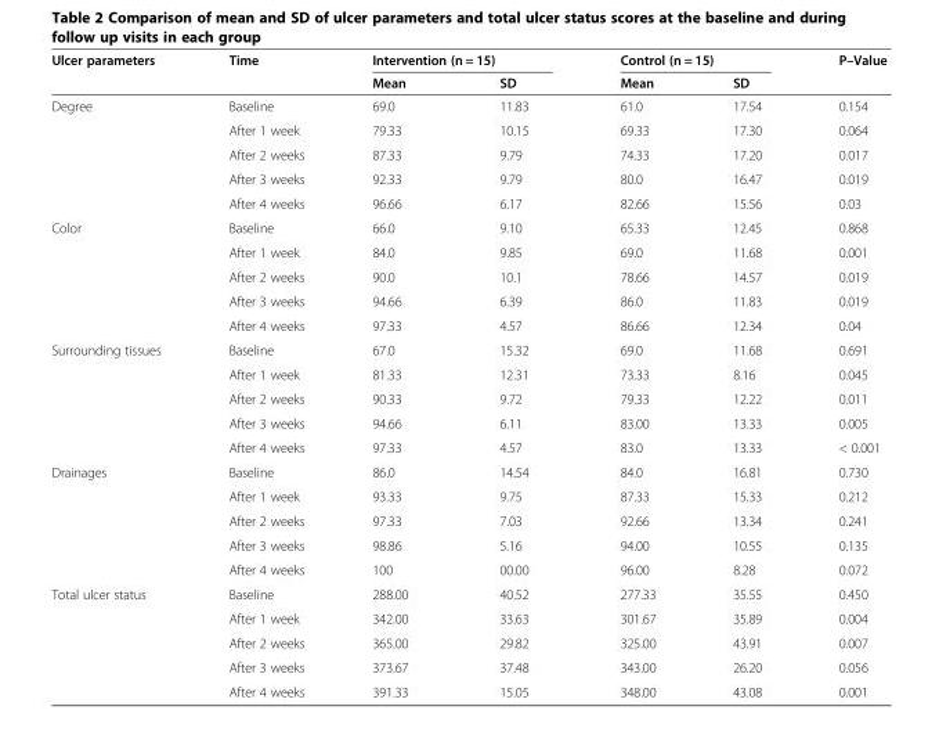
<table><thead><tr><td rowspan="2">Ulcer parameters</td><td rowspan="2">Time</td><td colspan="2">Intervention (n = 15)</td><td colspan="2">Control (n = 15)</td><td rowspan="2">P–Value</td></tr><tr><td>Mean</td><td>SD</td><td>Mean</td><td>SD</td></tr></thead><tbody><tr><td rowspan="5">Degree</td><td>Baseline</td><td>69.0</td><td>11.83</td><td>61.0</td><td>17.54</td><td>0.154</td></tr><tr><td>After 1 week</td><td>79.33</td><td>10.15</td><td>69.33</td><td>17.30</td><td>0.064</td></tr><tr><td>After 2 weeks</td><td>87.33</td><td>9.79</td><td>74.33</td><td>17.20</td><td>0.017</td></tr><tr><td>After 3 weeks</td><td>92.33</td><td>9.79</td><td>80.0</td><td>16.47</td><td>0.019</td></tr><tr><td>After 4 weeks</td><td>96.66</td><td>6.17</td><td>82.66</td><td>15.56</td><td>0.03</td></tr><tr><td rowspan="5">Color</td><td>Baseline</td><td>66.0</td><td>9.10</td><td>65.33</td><td>12.45</td><td>0.868</td></tr><tr><td>After 1 week</td><td>84.0</td><td>9.85</td><td>69.0</td><td>11.68</td><td>0.001</td></tr><tr><td>After 2 weeks</td><td>90.0</td><td>10.1</td><td>78.66</td><td>14.57</td><td>0.019</td></tr><tr><td>After 3 weeks</td><td>94.66</td><td>6.39</td><td>86.0</td><td>11.83</td><td>0.019</td></tr><tr><td>After 4 weeks</td><td>97.33</td><td>4.57</td><td>86.66</td><td>12.34</td><td>0.04</td></tr><tr><td rowspan="5">Surrounding tissues</td><td>Baseline</td><td>67.0</td><td>15.32</td><td>69.0</td><td>11.68</td><td>0.691</td></tr><tr><td>After 1 week</td><td>81.33</td><td>12.31</td><td>73.33</td><td>8.16</td><td>0.045</td></tr><tr><td>After 2 weeks</td><td>90.33</td><td>9.72</td><td>79.33</td><td>12.22</td><td>0.011</td></tr><tr><td>After 3 weeks</td><td>94.66</td><td>6.11</td><td>83.00</td><td>13.33</td><td>0.005</td></tr><tr><td>After 4 weeks</td><td>97.33</td><td>4.57</td><td>83.0</td><td>13.33</td><td>&lt; 0.001</td></tr><tr><td rowspan="5">Drainages</td><td>Baseline</td><td>86.0</td><td>14.54</td><td>84.0</td><td>16.81</td><td>0.730</td></tr><tr><td>After 1 week</td><td>93.33</td><td>9.75</td><td>87.33</td><td>15.33</td><td>0.212</td></tr><tr><td>After 2 weeks</td><td>97.33</td><td>7.03</td><td>92.66</td><td>13.34</td><td>0.241</td></tr><tr><td>After 3 weeks</td><td>98.86</td><td>5.16</td><td>94.00</td><td>10.55</td><td>0.135</td></tr><tr><td>After 4 weeks</td><td>100</td><td>00.00</td><td>96.00</td><td>8.28</td><td>0.072</td></tr><tr><td rowspan="5">Total ulcer status</td><td>Baseline</td><td>288.00</td><td>40.52</td><td>277.33</td><td>35.55</td><td>0.450</td></tr><tr><td>After 1 week</td><td>342.00</td><td>33.63</td><td>301.67</td><td>35.89</td><td>0.004</td></tr><tr><td>After 2 weeks</td><td>365.00</td><td>29.82</td><td>325.00</td><td>43.91</td><td>0.007</td></tr><tr><td>After 3 weeks</td><td>373.67</td><td>37.48</td><td>343.00</td><td>26.20</td><td>0.056</td></tr><tr><td>After 4 weeks</td><td>391.33</td><td>15.05</td><td>348.00</td><td>43.08</td><td>0.001</td></tr></tbody></table>